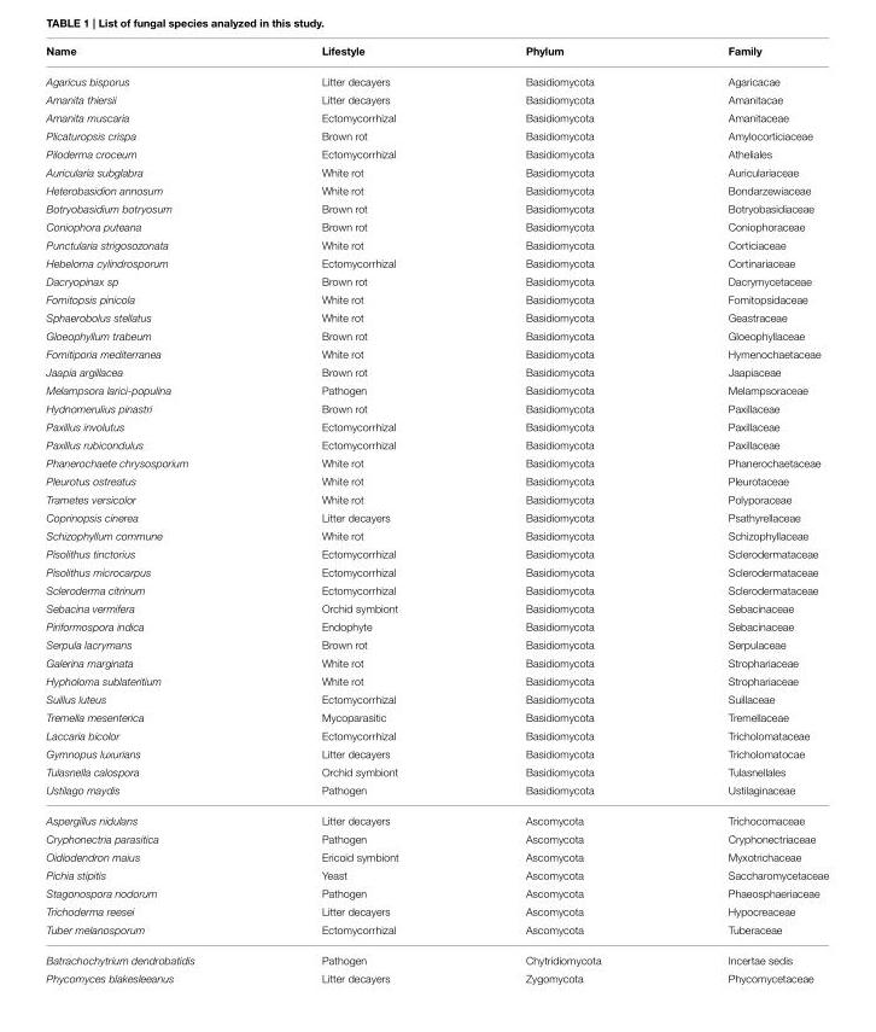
<table><thead><tr><td>Name</td><td>Lifestyle</td><td>Phylum</td><td>Family</td></tr></thead><tbody><tr><td>Agaricus bisporus</td><td>Litter decayers</td><td>Basidiomycota</td><td>Agaricacae</td></tr><tr><td>Amanita thiersii</td><td>Litter decayers</td><td>Basidiomycota</td><td>Amanitacae</td></tr><tr><td>Amanita muscaria</td><td>Ectomycorrhizal</td><td>Basidiomycota</td><td>Amanitaceae</td></tr><tr><td>Plicaturopsis crispa</td><td>Brown rot</td><td>Basidiomycota</td><td>Amylocorticiaceae</td></tr><tr><td>Piloderma croceum</td><td>Ectomycorrhizal</td><td>Basidiomycota</td><td>Atheliales</td></tr><tr><td>Auricularia subglabra</td><td>White rot</td><td>Basidiomycota</td><td>Auriculariaceae</td></tr><tr><td>Heterobasidion annosum</td><td>White rot</td><td>Basidiomycota</td><td>Bondarzewiaceae</td></tr><tr><td>Botryobasidium botryosum</td><td>Brown rot</td><td>Basidiomycota</td><td>Botryobasidiaceae</td></tr><tr><td>Coniophora puteana</td><td>Brown rot</td><td>Basidiomycota</td><td>Coniophoraceae</td></tr><tr><td>Punctularia strigosozonata</td><td>White rot</td><td>Basidiomycota</td><td>Corticiaceae</td></tr><tr><td>Hebeloma cylindrosporum</td><td>Ectomycorrhizal</td><td>Basidiomycota</td><td>Cortinariaceae</td></tr><tr><td>Dacryopinax sp</td><td>Brown rot</td><td>Basidiomycota</td><td>Dacrymycetaceae</td></tr><tr><td>Fomitopsis pinicola</td><td>White rot</td><td>Basidiomycota</td><td>Fomitopsidaceae</td></tr><tr><td>Sphaerobolus stellatus</td><td>White rot</td><td>Basidiomycota</td><td>Geastraceae</td></tr><tr><td>Gloeophyllum trabeum</td><td>Brown rot</td><td>Basidiomycota</td><td>Gloeophyllaceae</td></tr><tr><td>Fomitiporia mediterranea</td><td>White rot</td><td>Basidiomycota</td><td>Hymenochaetaceae</td></tr><tr><td>Jaapia argillacea</td><td>Brown rot</td><td>Basidiomycota</td><td>Jaapiaceae</td></tr><tr><td>Melampsora larici-populina</td><td>Pathogen</td><td>Basidiomycota</td><td>Melampsoraceae</td></tr><tr><td>Hydnomerulius pinastri</td><td>Brown rot</td><td>Basidiomycota</td><td>Paxillaceae</td></tr><tr><td>Paxillus involutus</td><td>Ectomycorrhizal</td><td>Basidiomycota</td><td>Paxillaceae</td></tr><tr><td>Paxillus rubicondulus</td><td>Ectomycorrhizal</td><td>Basidiomycota</td><td>Paxillaceae</td></tr><tr><td>Phanerochaete chrysosporium</td><td>White rot</td><td>Basidiomycota</td><td>Phanerochaetaceae</td></tr><tr><td>Pleurotus ostreatus</td><td>White rot</td><td>Basidiomycota</td><td>Pleurotaceae</td></tr><tr><td>Trametes versicolor</td><td>White rot</td><td>Basidiomycota</td><td>Polyporaceae</td></tr><tr><td>Coprinopsis cinerea</td><td>Litter decayers</td><td>Basidiomycota</td><td>Psathyrellaceae</td></tr><tr><td>Schizophyllum commune</td><td>White rot</td><td>Basidiomycota</td><td>Schizophyllaceae</td></tr><tr><td>Pisolithus tinctorius</td><td>Ectomycorrhizal</td><td>Basidiomycota</td><td>Sclerodermataceae</td></tr><tr><td>Pisolithus microcarpus</td><td>Ectomycorrhizal</td><td>Basidiomycota</td><td>Sclerodermataceae</td></tr><tr><td>Scleroderma citrinum</td><td>Ectomycorrhizal</td><td>Basidiomycota</td><td>Sclerodermataceae</td></tr><tr><td>Sebacina vermifera</td><td>Orchid symbiont</td><td>Basidiomycota</td><td>Sebacinaceae</td></tr><tr><td>Piriformospora indica</td><td>Endophyte</td><td>Basidiomycota</td><td>Sebacinaceae</td></tr><tr><td>Serpula lacrymans</td><td>Brown rot</td><td>Basidiomycota</td><td>Serpulaceae</td></tr><tr><td>Galerina marginata</td><td>White rot</td><td>Basidiomycota</td><td>Strophariaceae</td></tr><tr><td>Hypholoma sublateritium</td><td>White rot</td><td>Basidiomycota</td><td>Strophariaceae</td></tr><tr><td>Suillus luteus</td><td>Ectomycorrhizal</td><td>Basidiomycota</td><td>Suillaceae</td></tr><tr><td>Tremella mesenterica</td><td>Mycoparasitic</td><td>Basidiomycota</td><td>Tremellaceae</td></tr><tr><td>Laccaria bicolor</td><td>Ectomycorrhizal</td><td>Basidiomycota</td><td>Tricholomataceae</td></tr><tr><td>Gymnopus luxurians</td><td>Litter decayers</td><td>Basidiomycota</td><td>Tricholomatocae</td></tr><tr><td>Tulasnella calospora</td><td>Orchid symbiont</td><td>Basidiomycota</td><td>Tulasnellales</td></tr><tr><td>Ustilago maydis</td><td>Pathogen</td><td>Basidiomycota</td><td>Ustilaginaceae</td></tr><tr><td>Aspergillus nidulans</td><td>Litter decayers</td><td>Ascomycota</td><td>Trichocomaceae</td></tr><tr><td>Cryphonectria parasitica</td><td>Pathogen</td><td>Ascomycota</td><td>Cryphonectriaceae</td></tr><tr><td>Oidiodendron maius</td><td>Ericoid symbiont</td><td>Ascomycota</td><td>Myxotrichaceae</td></tr><tr><td>Pichia stipitis</td><td>Yeast</td><td>Ascomycota</td><td>Saccharomycetaceae</td></tr><tr><td>Stagonospora nodorum</td><td>Pathogen</td><td>Ascomycota</td><td>Phaeosphaeriaceae</td></tr><tr><td>Trichoderma reesei</td><td>Litter decayers</td><td>Ascomycota</td><td>Hypocreaceae</td></tr><tr><td>Tuber melanosporum</td><td>Ectomycorrhizal</td><td>Ascomycota</td><td>Tuberaceae</td></tr><tr><td>Batrachochytrium dendrobatidis</td><td>Pathogen</td><td>Chytridiomycota</td><td>Incertae sedis</td></tr><tr><td>Phycomyces blakesleeanus</td><td>Litter decayers</td><td>Zygomycota</td><td>Phycomycetaceae</td></tr></tbody></table>